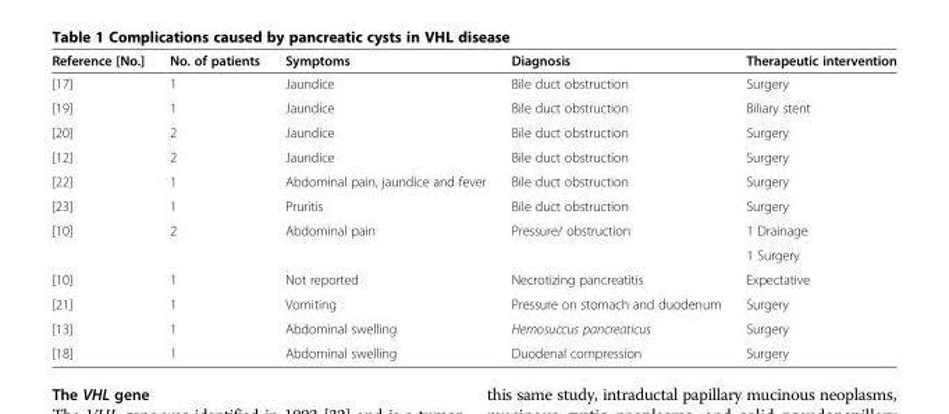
<table><thead><tr><td>Reference [No.]</td><td>No. of patients</td><td>Symptoms</td><td>Diagnosis</td><td>Therapeutic intervention</td></tr></thead><tbody><tr><td>[17]</td><td>1</td><td>Jaundice</td><td>Bile duct obstruction</td><td>Surgery</td></tr><tr><td>[19]</td><td>1</td><td>Jaundice</td><td>Bile duct obstruction</td><td>Biliary stent</td></tr><tr><td>[20]</td><td>2</td><td>Jaundice</td><td>Bile duct obstruction</td><td>Surgery</td></tr><tr><td>[12]</td><td>2</td><td>Jaundice</td><td>Bile duct obstruction</td><td>Surgery</td></tr><tr><td>[22]</td><td>1</td><td>Abdominal pain, jaundice and fever</td><td>Bile duct obstruction</td><td>Surgery</td></tr><tr><td>[23]</td><td>1</td><td>Pruritis</td><td>Bile duct obstruction</td><td>Surgery</td></tr><tr><td rowspan="2">[10]</td><td>2</td><td>Abdominal pain</td><td>Pressure/ obstruction</td><td>1 Drainage</td></tr><tr><td></td><td></td><td></td><td>1 Surgery</td></tr><tr><td>[10]</td><td>1</td><td>Not reported</td><td>Necrotizing pancreatitis</td><td>Expectative</td></tr><tr><td>[21]</td><td>1</td><td>Vomiting</td><td>Pressure on stomach and duodenum</td><td>Surgery</td></tr><tr><td>[13]</td><td>1</td><td>Abdominal swelling</td><td>Hemosuccus pancreaticus</td><td>Surgery</td></tr><tr><td>[18]</td><td>1</td><td>Abdominal swelling</td><td>Duodenal compression</td><td>Surgery</td></tr></tbody></table>